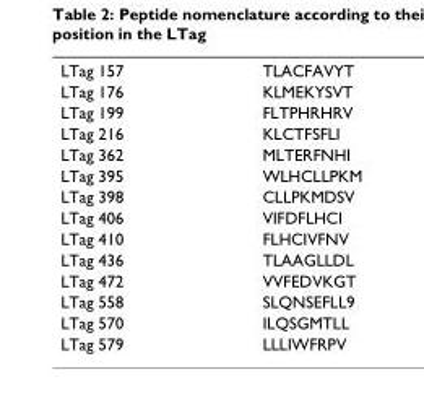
<table><tbody><tr><td>LTag 157</td><td>TLACFAVYT</td></tr><tr><td>LTag 176</td><td>KLMEKYSVT</td></tr><tr><td>LTag 199</td><td>FLTPHRHRV</td></tr><tr><td>LTag 216</td><td>KLCTFSFLI</td></tr><tr><td>LTag 362</td><td>MLTERFNHI</td></tr><tr><td>LTag 395</td><td>WLHCLLPKM</td></tr><tr><td>LTag 398</td><td>CLLPKMDSV</td></tr><tr><td>LTag 406</td><td>VIFDFLHCI</td></tr><tr><td>LTag 410</td><td>FLHCIVFNV</td></tr><tr><td>LTag 436</td><td>TLAAGLLDL</td></tr><tr><td>LTag 472</td><td>VVFEDVKGT</td></tr><tr><td>LTag 558</td><td>SLQNSEFLL9</td></tr><tr><td>LTag 570</td><td>ILQSGMTLL</td></tr><tr><td>LTag 579</td><td>LLLIWFRPV</td></tr></tbody></table>